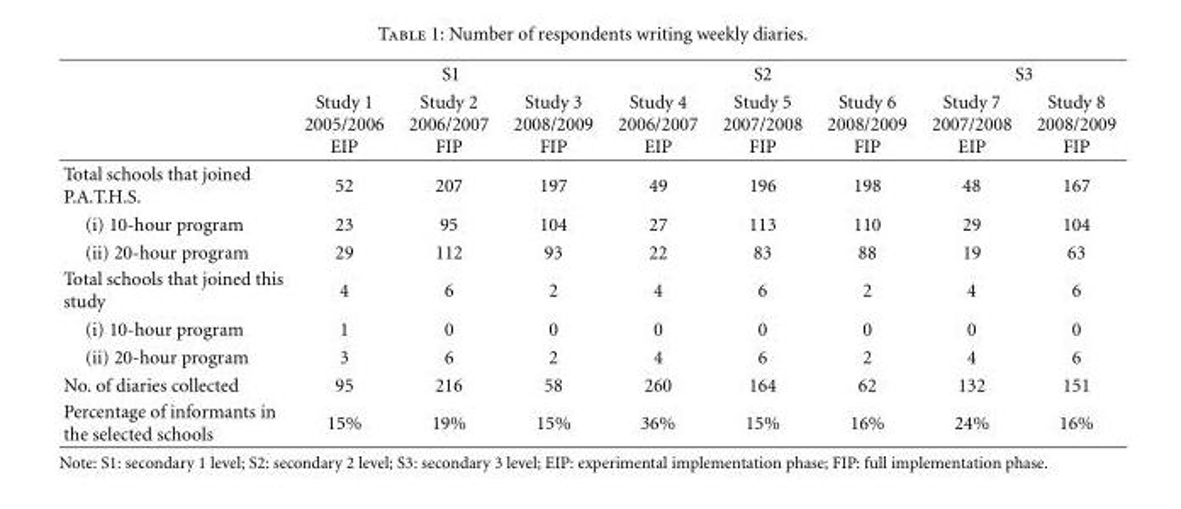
<table><thead><tr><td rowspan="2"></td><td colspan="3">S1</td><td colspan="3">S2</td><td colspan="2">S3</td></tr><tr><td>Study 1 2005/2006 EIP</td><td>Study 2 2006/2007 FIP</td><td>Study 3 2008/2009 FIP</td><td>Study 4 2006/2007 EIP</td><td>Study 5 2007/2008 FIP</td><td>Study 6 2008/2009 FIP</td><td>Study 7 2007/2008 EIP</td><td>Study 8 2008/2009 FIP</td></tr></thead><tbody><tr><td>Total schools that joined P.A.T.H.S.</td><td>52</td><td>207</td><td>197</td><td>49</td><td>196</td><td>198</td><td>48</td><td>167</td></tr><tr><td>(i) 10-hour program</td><td>23</td><td>95</td><td>104</td><td>27</td><td>113</td><td>110</td><td>29</td><td>104</td></tr><tr><td>(ii) 20-hour program</td><td>29</td><td>112</td><td>93</td><td>22</td><td>83</td><td>88</td><td>19</td><td>63</td></tr><tr><td>Total schools that joined this study</td><td>4</td><td>6</td><td>2</td><td>4</td><td>6</td><td>2</td><td>4</td><td>6</td></tr><tr><td>(i) 10-hour program</td><td>1</td><td>0</td><td>0</td><td>0</td><td>0</td><td>0</td><td>0</td><td>0</td></tr><tr><td>(ii) 20-hour program</td><td>3</td><td>6</td><td>2</td><td>4</td><td>6</td><td>2</td><td>4</td><td>6</td></tr><tr><td>No. of diaries collected</td><td>95</td><td>216</td><td>58</td><td>260</td><td>164</td><td>62</td><td>132</td><td>151</td></tr><tr><td>Percentage of informants in the selected schools</td><td>15%</td><td>19%</td><td>15%</td><td>36%</td><td>15%</td><td>16%</td><td>24%</td><td>16%</td></tr></tbody></table>